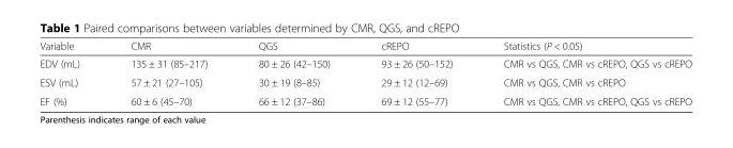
<table><thead><tr><td>Variable</td><td>CMR</td><td>QGS</td><td>cREPO</td><td>Statistics (P &lt; 0.05)</td></tr></thead><tbody><tr><td>EDV (mL)</td><td>135 ± 31 (85–217)</td><td>80 ± 26 (42–150)</td><td>93 ± 26 (50–152)</td><td>CMR vs QGS, CMR vs cREPO, QGS vs cREPO</td></tr><tr><td>ESV (mL)</td><td>57 ± 21 (27–105)</td><td>30 ± 19 (8–85)</td><td>29 ± 12 (12–69)</td><td>CMR vs QGS, CMR vs cREPO</td></tr><tr><td>EF (%)</td><td>60 ± 6 (45–70)</td><td>66 ± 12 (37–86)</td><td>69 ± 12 (55–77)</td><td>CMR vs QGS, CMR vs cREPO, QGS vs cREPO</td></tr></tbody></table>